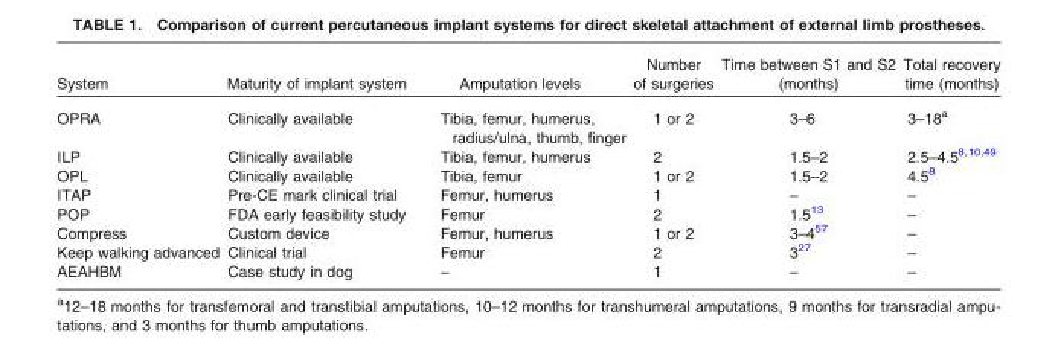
<table><thead><tr><td>System</td><td>Maturity of implant system</td><td>Amputation levels</td><td>Number of surgeries</td><td>Time between S1 and S2 (months)</td><td>Total recovery time (months)</td></tr></thead><tbody><tr><td>OPRA</td><td>Clinically available</td><td>Tibia, femur, humerus, radius/ulna, thumb, finger</td><td>1 or 2</td><td>3–6</td><td>3–18<sup>a</sup></td></tr><tr><td>ILP</td><td>Clinically available</td><td>Tibia, femur, humerus</td><td>2</td><td>1.5–2</td><td>2.5–4.5<sup>8</sup>,<sup>10</sup>,<sup>49</sup></td></tr><tr><td>OPL</td><td>Clinically available</td><td>Tibia, femur</td><td>1 or 2</td><td>1.5–2</td><td>4.5<sup>8</sup></td></tr><tr><td>ITAP</td><td>Pre-CE mark clinical trial</td><td>Femur, humerus</td><td>1</td><td>–</td><td>–</td></tr><tr><td>POP</td><td>FDA early feasibility study</td><td>Femur</td><td>2</td><td>1.5<sup>13</sup></td><td>–</td></tr><tr><td>Compress</td><td>Custom device</td><td>Femur, humerus</td><td>1 or 2</td><td>3–4<sup>57</sup></td><td>–</td></tr><tr><td>Keep walking advanced</td><td>Clinical trial</td><td>Femur</td><td>2</td><td>3<sup>27</sup></td><td>–</td></tr><tr><td>AEAHBM</td><td>Case study in dog</td><td>–</td><td>1</td><td>–</td><td>–</td></tr></tbody></table>